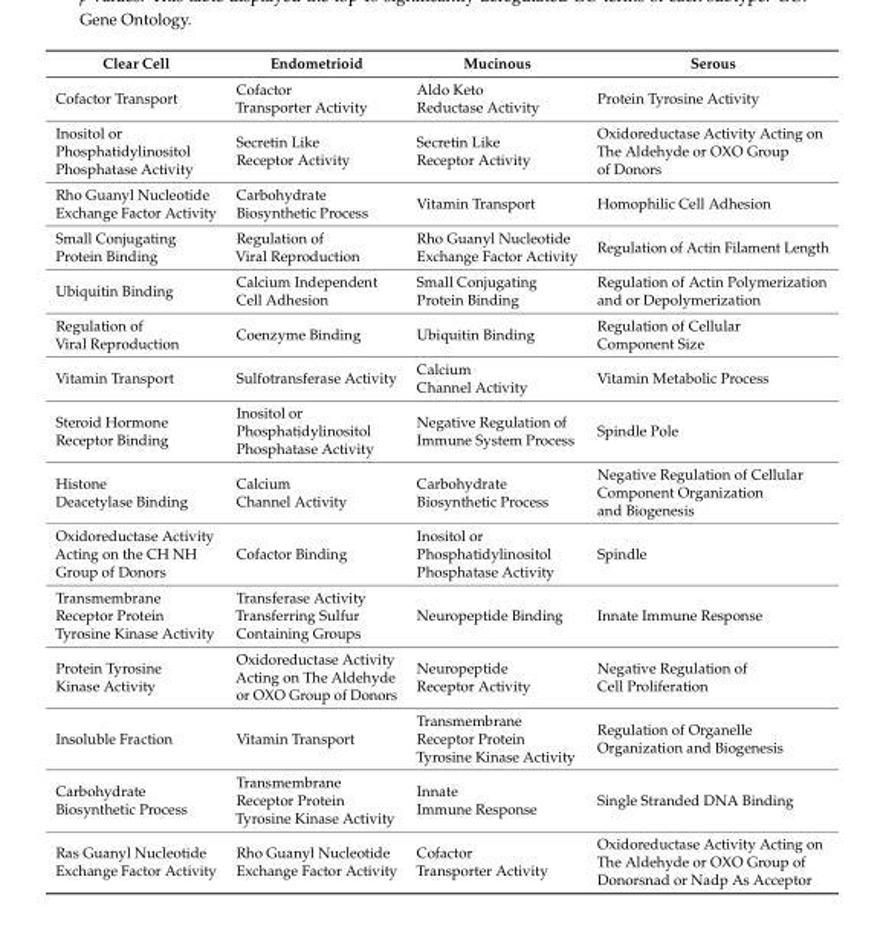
<table><thead><tr><td>Clear Cell</td><td>Endometrioid</td><td>Mucinous</td><td>Serous</td></tr></thead><tbody><tr><td>Cofactor Transport</td><td>Cofactor Transporter Activity</td><td>Aldo Keto Reductase Activity</td><td>Protein Tyrosine Activity</td></tr><tr><td>Inositol or Phosphatidylinositol Phosphatase Activity</td><td>Secretin Like Receptor Activity</td><td>Secretin Like Receptor Activity</td><td>Oxidoreductase Activity Acting on The Aldehyde or OXO Group of Donors</td></tr><tr><td>Rho Guanyl Nucleotide Exchange Factor Activity</td><td>Carbohydrate Biosynthetic Process</td><td>Vitamin Transport</td><td>Homophilic Cell Adhesion</td></tr><tr><td>Small Conjugating Protein Binding</td><td>Regulation of Viral Reproduction</td><td>Rho Guanyl Nucleotide Exchange Factor Activity</td><td>Regulation of Actin Filament Length</td></tr><tr><td>Ubiquitin Binding</td><td>Calcium Independent Cell Adhesion</td><td>Small Conjugating Protein Binding</td><td>Regulation of Actin Polymerization and or Depolymerization</td></tr><tr><td>Regulation of Viral Reproduction</td><td>Coenzyme Binding</td><td>Ubiquitin Binding</td><td>Regulation of Cellular Component Size</td></tr><tr><td>Vitamin Transport</td><td>Sulfotransferase Activity</td><td>Calcium Channel Activity</td><td>Vitamin Metabolic Process</td></tr><tr><td>Steroid Hormone Receptor Binding</td><td>Inositol or Phosphatidylinositol Phosphatase Activity</td><td>Negative Regulation of Immune System Process</td><td>Spindle Pole</td></tr><tr><td>Histone Deacetylase Binding</td><td>Calcium Channel Activity</td><td>Carbohydrate Biosynthetic Process</td><td>Negative Regulation of Cellular Component Organization and Biogenesis</td></tr><tr><td>Oxidoreductase Activity Acting on the CH NH Group of Donors</td><td>Cofactor Binding</td><td>Inositol or Phosphatidylinositol Phosphatase Activity</td><td>Spindle</td></tr><tr><td>Transmembrane Receptor Protein Tyrosine Kinase Activity</td><td>Transferase Activity Transferring Sulfur Containing Groups</td><td>Neuropeptide Binding</td><td>Innate Immune Response</td></tr><tr><td>Protein Tyrosine Kinase Activity</td><td>Oxidoreductase Activity Acting on The Aldehyde or OXO Group of Donors</td><td>Neuropeptide Receptor Activity</td><td>Negative Regulation of Cell Proliferation</td></tr><tr><td>Insoluble Fraction</td><td>Vitamin Transport</td><td>Transmembrane Receptor Protein Tyrosine Kinase Activity</td><td>Regulation of Organelle Organization and Biogenesis</td></tr><tr><td>Carbohydrate Biosynthetic Process</td><td>Transmembrane Receptor Protein Tyrosine Kinase Activity</td><td>Innate Immune Response</td><td>Single Stranded DNA Binding</td></tr><tr><td>Ras Guanyl Nucleotide Exchange Factor Activity</td><td>Rho Guanyl Nucleotide Exchange Factor Activity</td><td>Cofactor Transporter Activity</td><td>Oxidoreductase Activity Acting on The Aldehyde or OXO Group of Donorsnad or Nadp As Acceptor</td></tr></tbody></table>